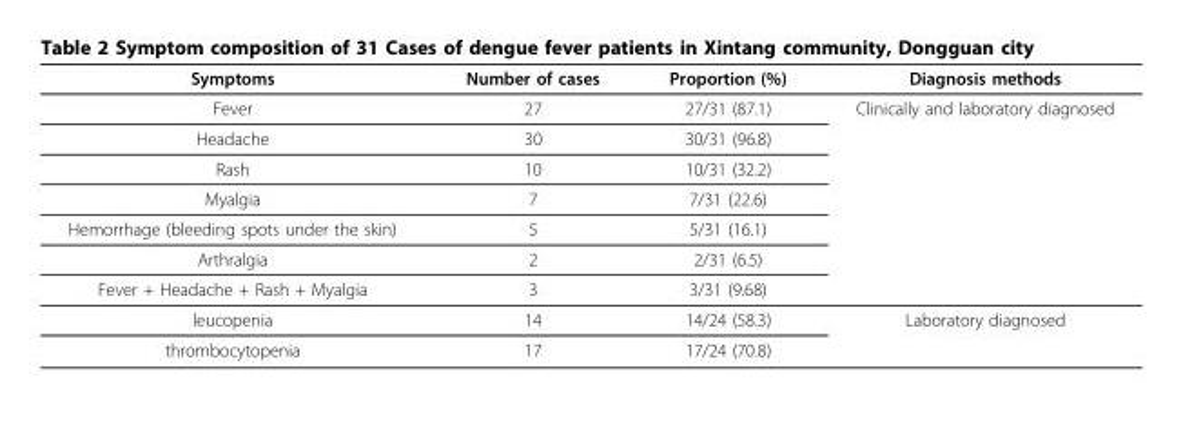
<table><thead><tr><td>Symptoms</td><td>Number of cases</td><td>Proportion (%)</td><td>Diagnosis methods</td></tr></thead><tbody><tr><td>Fever</td><td>27</td><td>27/31 (87.1)</td><td>Clinically and laboratory diagnosed</td></tr><tr><td>Headache</td><td>30</td><td>30/31 (96.8)</td><td></td></tr><tr><td>Rash</td><td>10</td><td>10/31 (32.2)</td><td></td></tr><tr><td>Myalgia</td><td>7</td><td>7/31 (22.6)</td><td></td></tr><tr><td>Hemorrhage (bleeding spots under the skin)</td><td>5</td><td>5/31 (16.1)</td><td></td></tr><tr><td>Arthralgia</td><td>2</td><td>2/31 (6.5)</td><td></td></tr><tr><td>Fever + Headache + Rash + Myalgia</td><td>3</td><td>3/31 (9.68)</td><td></td></tr><tr><td>leucopenia</td><td>14</td><td>14/24 (58.3)</td><td>Laboratory diagnosed</td></tr><tr><td>thrombocytopenia</td><td>17</td><td>17/24 (70.8)</td><td></td></tr></tbody></table>